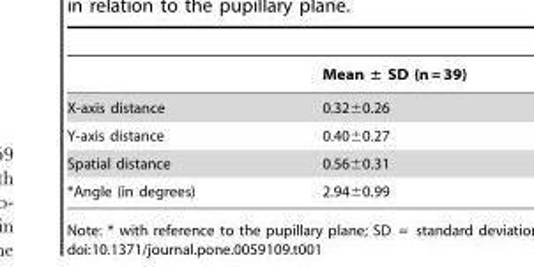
<table><thead><tr><td></td><td>Mean ± SD (n = 39)</td></tr></thead><tbody><tr><td>X-axis distance</td><td>0.32±0.26</td></tr><tr><td>Y-axis distance</td><td>0.40±0.27</td></tr><tr><td>Spatial distance</td><td>0.56±0.31</td></tr><tr><td>*Angle (in degrees)</td><td>2.94±0.99</td></tr></tbody></table>